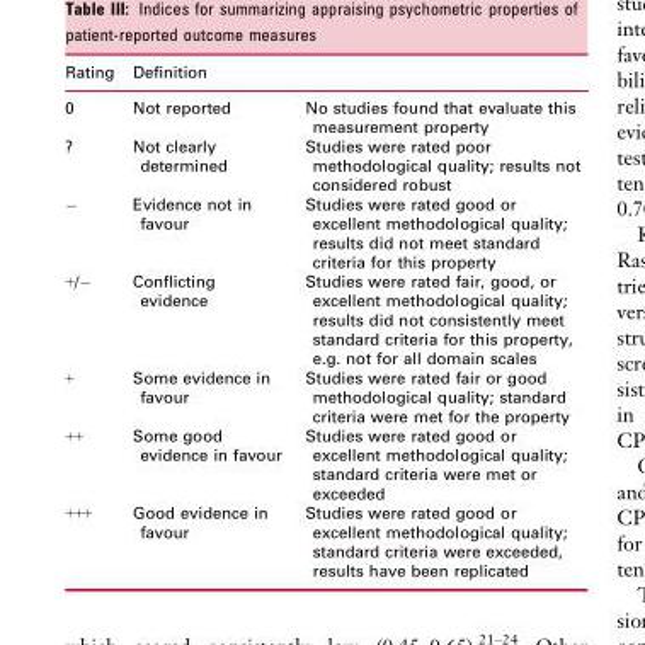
<table><thead><tr><td>Rating</td><td>Definition</td><td></td></tr></thead><tbody><tr><td>0</td><td>Not reported</td><td>No studies found that evaluate this measurement property</td></tr><tr><td>?</td><td>Not clearly determined</td><td>Studies were rated poor methodological quality; results not considered robust</td></tr><tr><td>−</td><td>Evidence not in favour</td><td>Studies were rated good or excellent methodological quality; results did not meet standard criteria for this property</td></tr><tr><td>+/−</td><td>Conflicting evidence</td><td>Studies were rated fair, good, or excellent methodological quality; results did not consistently meet standard criteria for this property, e.g. not for all domain scales</td></tr><tr><td>+</td><td>Some evidence in favour</td><td>Studies were rated fair or good methodological quality; standard criteria were met for the property</td></tr><tr><td>++</td><td>Some good evidence in favour</td><td>Studies were rated good or excellent methodological quality; standard criteria were met or exceeded</td></tr><tr><td>+++</td><td>Good evidence in favour</td><td>Studies were rated good or excellent methodological quality; standard criteria were exceeded, results have been replicated</td></tr></tbody></table>